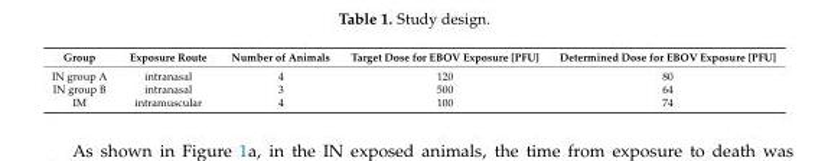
<table><thead><tr><td>Group</td><td>Exposure Route</td><td>Number of Animals</td><td>Target Dose for EBOV Exposure [PFU]</td><td>Determined Dose for EBOV Exposure [PFU]</td></tr></thead><tbody><tr><td>IN group A</td><td>intranasal</td><td>4</td><td>120</td><td>80</td></tr><tr><td>IN group B</td><td>intranasal</td><td>3</td><td>500</td><td>64</td></tr><tr><td>IM</td><td>intramuscular</td><td>4</td><td>100</td><td>74</td></tr></tbody></table>